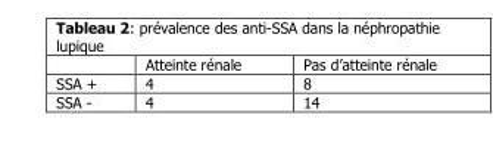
<table><thead><tr><td></td><td>Atteinte rénale</td><td>Pas d’atteinte rénale</td></tr></thead><tbody><tr><td>SSA +</td><td>4</td><td>8</td></tr><tr><td>SSA -</td><td>4</td><td>14</td></tr></tbody></table>